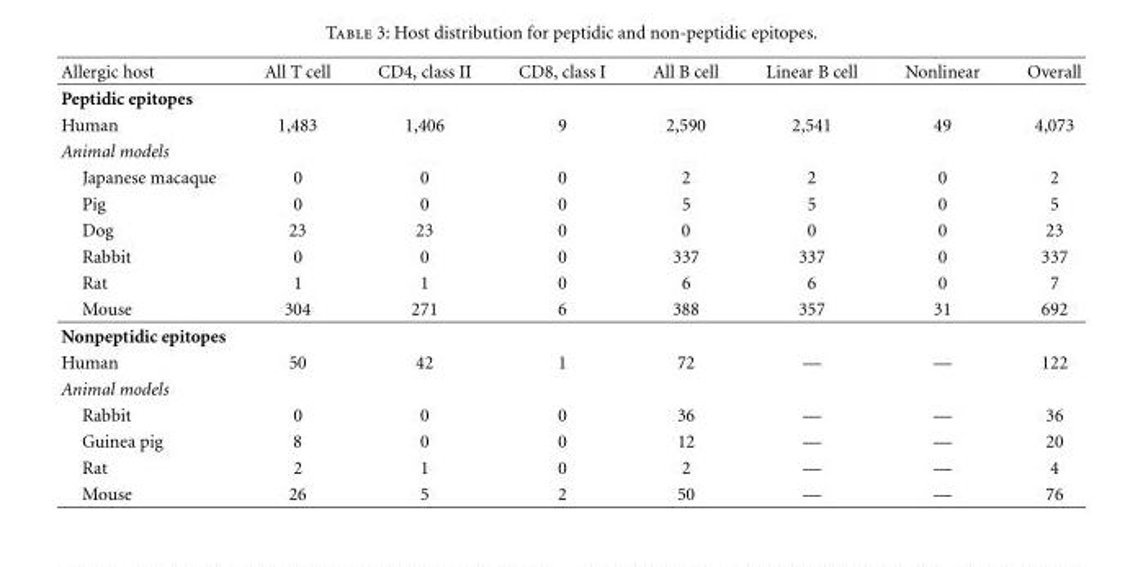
<table><thead><tr><td>Allergic host</td><td>All T cell</td><td>CD4, class II</td><td>CD8, class I</td><td>All B cell</td><td>Linear B cell</td><td>Nonlinear</td><td>Overall</td></tr></thead><tbody><tr><td colspan="8">Peptidic epitopes</td></tr><tr><td>Human</td><td>1,483</td><td>1,406</td><td>9</td><td>2,590</td><td>2,541</td><td>49</td><td>4,073</td></tr><tr><td colspan="8">Animal models</td></tr><tr><td>Japanese macaque</td><td>0</td><td>0</td><td>0</td><td>2</td><td>2</td><td>0</td><td>2</td></tr><tr><td>Pig</td><td>0</td><td>0</td><td>0</td><td>5</td><td>5</td><td>0</td><td>5</td></tr><tr><td>Dog</td><td>23</td><td>23</td><td>0</td><td>0</td><td>0</td><td>0</td><td>23</td></tr><tr><td>Rabbit</td><td>0</td><td>0</td><td>0</td><td>337</td><td>337</td><td>0</td><td>337</td></tr><tr><td>Rat</td><td>1</td><td>1</td><td>0</td><td>6</td><td>6</td><td>0</td><td>7</td></tr><tr><td>Mouse</td><td>304</td><td>271</td><td>6</td><td>388</td><td>357</td><td>31</td><td>692</td></tr><tr><td colspan="8">Nonpeptidic epitopes</td></tr><tr><td>Human</td><td>50</td><td>42</td><td>1</td><td>72</td><td>—</td><td>—</td><td>122</td></tr><tr><td colspan="8">Animal models</td></tr><tr><td>Rabbit</td><td>0</td><td>0</td><td>0</td><td>36</td><td>—</td><td>—</td><td>36</td></tr><tr><td>Guinea pig</td><td>8</td><td>0</td><td>0</td><td>12</td><td>—</td><td>—</td><td>20</td></tr><tr><td>Rat</td><td>2</td><td>1</td><td>0</td><td>2</td><td>—</td><td>—</td><td>4</td></tr><tr><td>Mouse</td><td>26</td><td>5</td><td>2</td><td>50</td><td>—</td><td>—</td><td>76</td></tr></tbody></table>